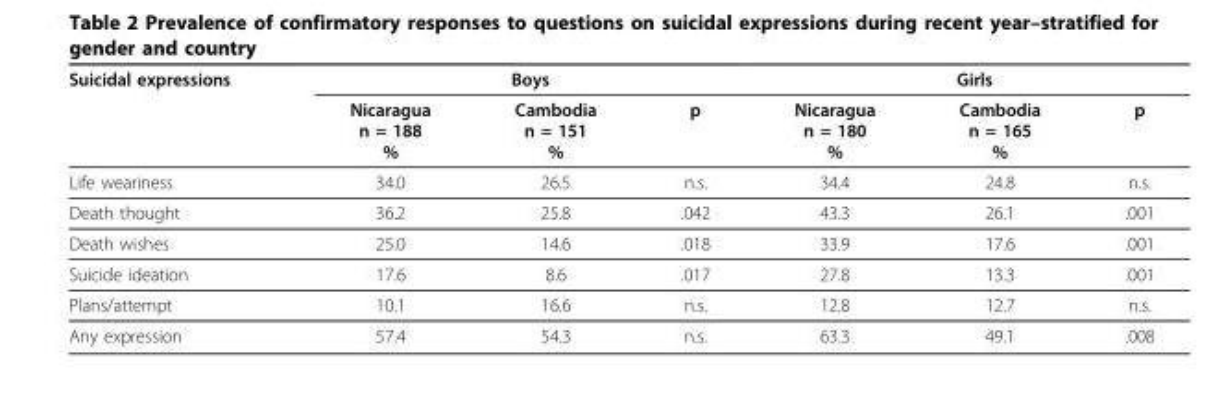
<table><thead><tr><td rowspan="2">Suicidal expressions</td><td colspan="3">Boys</td><td colspan="3">Girls</td></tr><tr><td>Nicaragua n = 188 %</td><td>Cambodia n = 151 %</td><td>p</td><td>Nicaragua n = 180 %</td><td>Cambodia n = 165 %</td><td>p</td></tr></thead><tbody><tr><td>Life weariness</td><td>34.0</td><td>26.5</td><td>n.s.</td><td>34.4</td><td>24.8</td><td>n.s.</td></tr><tr><td>Death thought</td><td>36.2</td><td>25.8</td><td>.042</td><td>43.3</td><td>26.1</td><td>.001</td></tr><tr><td>Death wishes</td><td>25.0</td><td>14.6</td><td>.018</td><td>33.9</td><td>17.6</td><td>.001</td></tr><tr><td>Suicide ideation</td><td>17.6</td><td>8.6</td><td>.017</td><td>27.8</td><td>13.3</td><td>.001</td></tr><tr><td>Plans/attempt</td><td>10.1</td><td>16.6</td><td>n.s.</td><td>12.8</td><td>12.7</td><td>n.s.</td></tr><tr><td>Any expression</td><td>57.4</td><td>54.3</td><td>n.s.</td><td>63.3</td><td>49.1</td><td>.008</td></tr></tbody></table>